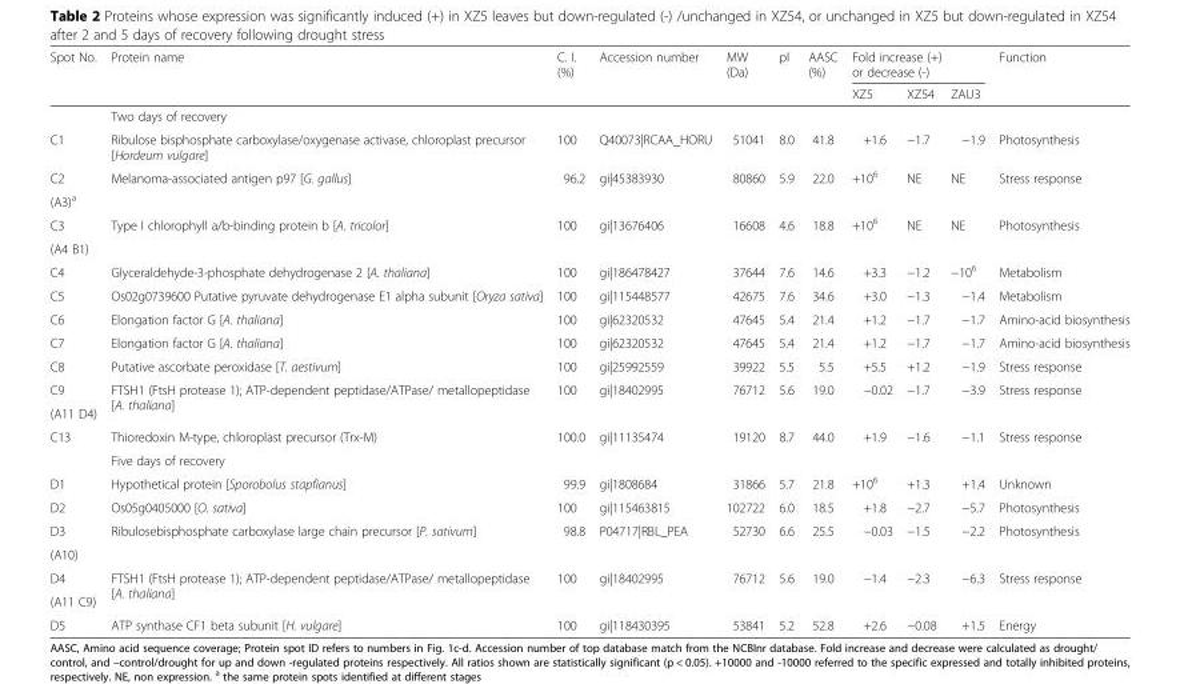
<table><thead><tr><td rowspan="2">Spot No.</td><td rowspan="2">Protein name</td><td rowspan="2">C. I. (%)</td><td rowspan="2">Accession number</td><td rowspan="2">MW (Da)</td><td rowspan="2">pI</td><td rowspan="2">AASC (%)</td><td colspan="3">Fold increase (+) or decrease (-)</td><td rowspan="2">Function</td></tr><tr><td>XZ5</td><td>XZ54</td><td>ZAU3</td></tr></thead><tbody><tr><td></td><td colspan="10">Two days of recovery</td></tr><tr><td>C1</td><td>Ribulose bisphosphate carboxylase/oxygenase activase, chloroplast precursor [Hordeum vulgare]</td><td>100</td><td>Q40073|RCAA_HORU</td><td>51041</td><td>8.0</td><td>41.8</td><td>+1.6</td><td>−1.7</td><td>−1.9</td><td>Photosynthesis</td></tr><tr><td>C2</td><td rowspan="2">Melanoma-associated antigen p97 [G. gallus]</td><td rowspan="2">96.2</td><td rowspan="2">gi|45383930</td><td rowspan="2">80860</td><td rowspan="2">5.9</td><td rowspan="2">22.0</td><td rowspan="2">+10<sup>6</sup></td><td rowspan="2">NE</td><td rowspan="2">NE</td><td rowspan="2">Stress response</td></tr><tr><td>(A3)<sup>a</sup></td></tr><tr><td>C3</td><td rowspan="2">Type I chlorophyll a/b-binding protein b [A. tricolor]</td><td rowspan="2">100</td><td rowspan="2">gi|13676406</td><td rowspan="2">16608</td><td rowspan="2">4.6</td><td rowspan="2">18.8</td><td rowspan="2">+10<sup>6</sup></td><td rowspan="2">NE</td><td rowspan="2">NE</td><td rowspan="2">Photosynthesis</td></tr><tr><td>(A4 B1)</td></tr><tr><td>C4</td><td>Glyceraldehyde-3-phosphate dehydrogenase 2 [A. thaliana]</td><td>100</td><td>gi|186478427</td><td>37644</td><td>7.6</td><td>14.6</td><td>+3.3</td><td>−1.2</td><td>−10<sup>6</sup></td><td>Metabolism</td></tr><tr><td>C5</td><td>Os02g0739600 Putative pyruvate dehydrogenase E1 alpha subunit [Oryza sativa]</td><td>100</td><td>gi|115448577</td><td>42675</td><td>7.6</td><td>34.6</td><td>+3.0</td><td>−1.3</td><td>−1.4</td><td>Metabolism</td></tr><tr><td>C6</td><td>Elongation factor G [A. thaliana]</td><td>100</td><td>gi|62320532</td><td>47645</td><td>5.4</td><td>21.4</td><td>+1.2</td><td>−1.7</td><td>−1.7</td><td>Amino-acid biosynthesis</td></tr><tr><td>C7</td><td>Elongation factor G [A. thaliana]</td><td>100</td><td>gi|62320532</td><td>47645</td><td>5.4</td><td>21.4</td><td>+1.2</td><td>−1.7</td><td>−1.7</td><td>Amino-acid biosynthesis</td></tr><tr><td>C8</td><td>Putative ascorbate peroxidase [T. aestivum]</td><td>100</td><td>gi|25992559</td><td>39922</td><td>5.5</td><td>5.5</td><td>+5.5</td><td>+1.2</td><td>−1.9</td><td>Stress response</td></tr><tr><td>C9</td><td rowspan="2">FTSH1 (FtsH protease 1); ATP-dependent peptidase/ATPase/ metallopeptidase [A. thaliana]</td><td rowspan="2">100</td><td rowspan="2">gi|18402995</td><td rowspan="2">76712</td><td rowspan="2">5.6</td><td rowspan="2">19.0</td><td rowspan="2">−0.02</td><td rowspan="2">−1.7</td><td rowspan="2">−3.9</td><td rowspan="2">Stress response</td></tr><tr><td>(A11 D4)</td></tr><tr><td rowspan="2">C13</td><td>Thioredoxin M-type, chloroplast precursor (Trx-M)</td><td>100.0</td><td>gi|11135474</td><td>19120</td><td>8.7</td><td>44.0</td><td>+1.9</td><td>−1.6</td><td>−1.1</td><td>Stress response</td></tr><tr><td colspan="10">Five days of recovery</td></tr><tr><td>D1</td><td>Hypothetical protein [Sporobolus stapfianus]</td><td>99.9</td><td>gi|1808684</td><td>31866</td><td>5.7</td><td>21.8</td><td>+10<sup>6</sup></td><td>+1.3</td><td>+1.4</td><td>Unknown</td></tr><tr><td>D2</td><td>Os05g0405000 [O. sativa]</td><td>100</td><td>gi|115463815</td><td>102722</td><td>6.0</td><td>18.5</td><td>+1.8</td><td>−2.7</td><td>−5.7</td><td>Photosynthesis</td></tr><tr><td>D3</td><td rowspan="2">Ribulosebisphosphate carboxylase large chain precursor [P. sativum]</td><td rowspan="2">98.8</td><td rowspan="2">P04717|RBL_PEA</td><td rowspan="2">52730</td><td rowspan="2">6.6</td><td rowspan="2">25.5</td><td rowspan="2">−0.03</td><td rowspan="2">−1.5</td><td rowspan="2">−2.2</td><td rowspan="2">Photosynthesis</td></tr><tr><td>(A10)</td></tr><tr><td>D4</td><td rowspan="2">FTSH1 (FtsH protease 1); ATP-dependent peptidase/ATPase/ metallopeptidase [A. thaliana]</td><td rowspan="2">100</td><td rowspan="2">gi|18402995</td><td rowspan="2">76712</td><td rowspan="2">5.6</td><td rowspan="2">19.0</td><td rowspan="2">−1.4</td><td rowspan="2">−2.3</td><td rowspan="2">−6.3</td><td rowspan="2">Stress response</td></tr><tr><td>(A11 C9)</td></tr><tr><td>D5</td><td>ATP synthase CF1 beta subunit [H. vulgare]</td><td>100</td><td>gi|118430395</td><td>53841</td><td>5.2</td><td>52.8</td><td>+2.6</td><td>−0.08</td><td>+1.5</td><td>Energy</td></tr></tbody></table>